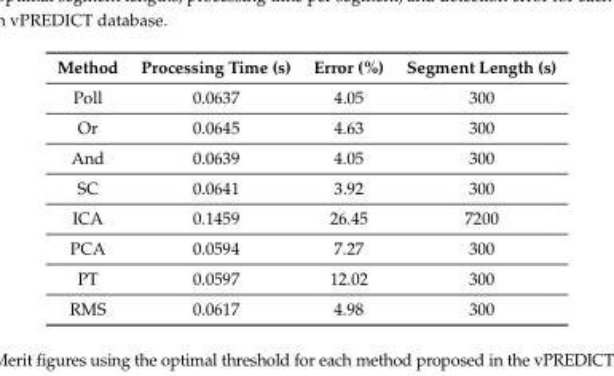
<table><thead><tr><td>Method</td><td>Processing Time (s)</td><td>Error (%)</td><td>Segment Length (s)</td></tr></thead><tbody><tr><td>Poll</td><td>0.0637</td><td>4.05</td><td>300</td></tr><tr><td>Or</td><td>0.0645</td><td>4.63</td><td>300</td></tr><tr><td>And</td><td>0.0639</td><td>4.05</td><td>300</td></tr><tr><td>SC</td><td>0.0641</td><td>3.92</td><td>300</td></tr><tr><td>ICA</td><td>0.1459</td><td>26.45</td><td>7200</td></tr><tr><td>PCA</td><td>0.0594</td><td>7.27</td><td>300</td></tr><tr><td>PT</td><td>0.0597</td><td>12.02</td><td>300</td></tr><tr><td>RMS</td><td>0.0617</td><td>4.98</td><td>300</td></tr></tbody></table>